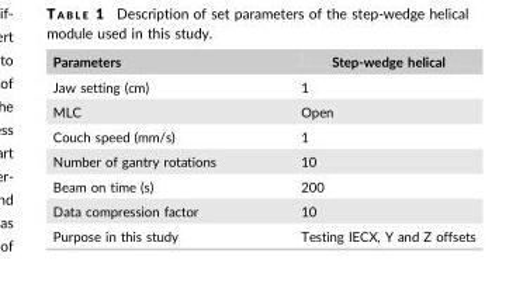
<table><thead><tr><td>Parameters</td><td>Step-wedge helical</td></tr></thead><tbody><tr><td>Jaw setting (cm)</td><td>1</td></tr><tr><td>MLC</td><td>Open</td></tr><tr><td>Couch speed (mm/s)</td><td>1</td></tr><tr><td>Number of gantry rotations</td><td>10</td></tr><tr><td>Beam on time (s)</td><td>200</td></tr><tr><td>Data compression factor</td><td>10</td></tr><tr><td>Purpose in this study</td><td>Testing IECX, Y and Z offsets</td></tr></tbody></table>